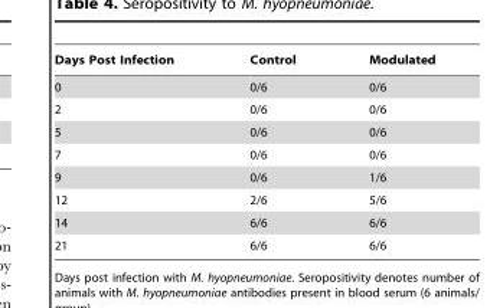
<table><thead><tr><td>Days Post Infection</td><td>Control</td><td>Modulated</td></tr></thead><tbody><tr><td>0</td><td>0/6</td><td>0/6</td></tr><tr><td>2</td><td>0/6</td><td>0/6</td></tr><tr><td>5</td><td>0/6</td><td>0/6</td></tr><tr><td>7</td><td>0/6</td><td>0/6</td></tr><tr><td>9</td><td>0/6</td><td>1/6</td></tr><tr><td>12</td><td>2/6</td><td>5/6</td></tr><tr><td>14</td><td>6/6</td><td>6/6</td></tr><tr><td>21</td><td>6/6</td><td>6/6</td></tr></tbody></table>